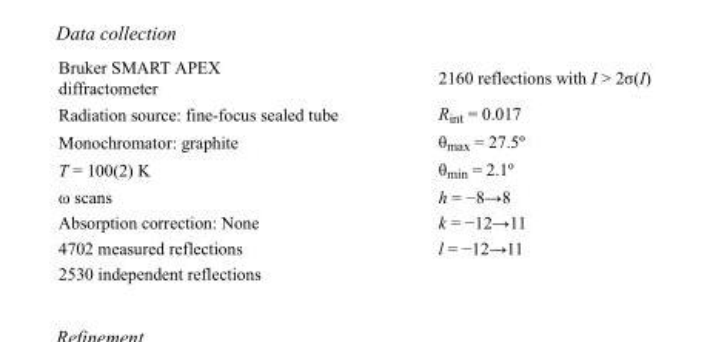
<table><tbody><tr><td>Bruker SMART APEX diffractometer</td><td>2160 reflections with I &gt; 2σ(I)</td></tr><tr><td>Radiation source: fine-focus sealed tube</td><td>R<sub>int</sub> = 0.017</td></tr><tr><td>Monochromator: graphite</td><td>θ<sub>max</sub> = 27.5º</td></tr><tr><td>T = 100(2) K</td><td>θ<sub>min</sub> = 2.1º</td></tr><tr><td>ω scans</td><td>h = −8→8</td></tr><tr><td>Absorption correction: None</td><td>k = −12→11</td></tr><tr><td>4702 measured reflections</td><td>l = −12→11</td></tr><tr><td>2530 independent reflections</td><td></td></tr></tbody></table>